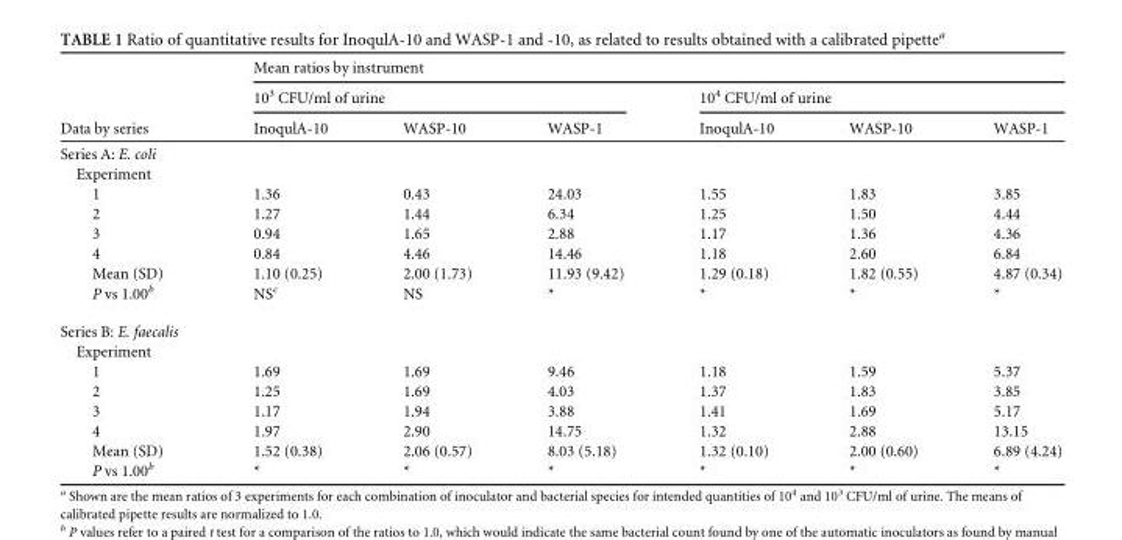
<table><thead><tr><td rowspan="3">Data by series</td><td colspan="6">Mean ratios by instrument</td></tr><tr><td colspan="3">10<sup>3</sup> CFU/ml of urine</td><td colspan="3">10<sup>4</sup> CFU/ml of urine</td></tr><tr><td>InoqulA-10</td><td>WASP-10</td><td>WASP-1</td><td>InoqulA-10</td><td>WASP-10</td><td>WASP-1</td></tr></thead><tbody><tr><td colspan="7">Series A: E. coli</td></tr><tr><td colspan="7">Experiment</td></tr><tr><td>1</td><td>1.36</td><td>0.43</td><td>24.03</td><td>1.55</td><td>1.83</td><td>3.85</td></tr><tr><td>2</td><td>1.27</td><td>1.44</td><td>6.34</td><td>1.25</td><td>1.50</td><td>4.44</td></tr><tr><td>3</td><td>0.94</td><td>1.65</td><td>2.88</td><td>1.17</td><td>1.36</td><td>4.36</td></tr><tr><td>4</td><td>0.84</td><td>4.46</td><td>14.46</td><td>1.18</td><td>2.60</td><td>6.84</td></tr><tr><td>Mean (SD)</td><td>1.10 (0.25)</td><td>2.00 (1.73)</td><td>11.93 (9.42)</td><td>1.29 (0.18)</td><td>1.82 (0.55)</td><td>4.87 (0.34)</td></tr><tr><td>P vs 1.00<sup>b</sup></td><td>NS<sup>c</sup></td><td>NS</td><td>*</td><td>*</td><td>*</td><td>*</td></tr><tr><td colspan="7">Series B: E. faecalis</td></tr><tr><td colspan="7">Experiment</td></tr><tr><td>1</td><td>1.69</td><td>1.69</td><td>9.46</td><td>1.18</td><td>1.59</td><td>5.37</td></tr><tr><td>2</td><td>1.25</td><td>1.69</td><td>4.03</td><td>1.37</td><td>1.83</td><td>3.85</td></tr><tr><td>3</td><td>1.17</td><td>1.94</td><td>3.88</td><td>1.41</td><td>1.69</td><td>5.17</td></tr><tr><td>4</td><td>1.97</td><td>2.90</td><td>14.75</td><td>1.32</td><td>2.88</td><td>13.15</td></tr><tr><td>Mean (SD)</td><td>1.52 (0.38)</td><td>2.06 (0.57)</td><td>8.03 (5.18)</td><td>1.32 (0.10)</td><td>2.00 (0.60)</td><td>6.89 (4.24)</td></tr><tr><td>P vs 1.00<sup>b</sup></td><td>*</td><td>*</td><td>*</td><td>*</td><td>*</td><td>*</td></tr></tbody></table>